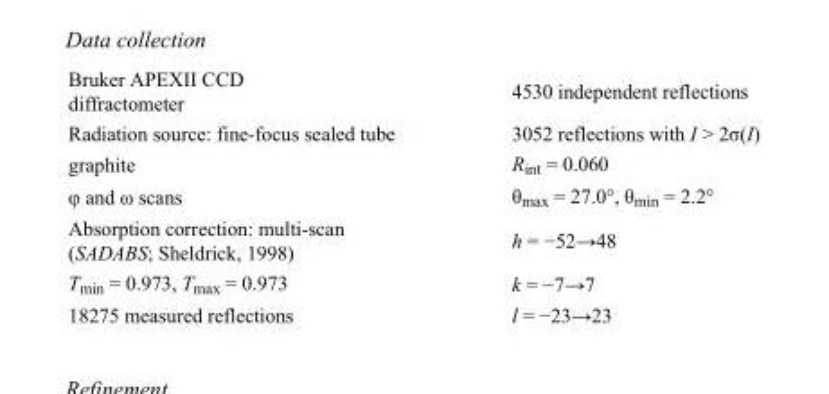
<table><tbody><tr><td>Bruker APEXII CCD diffractometer</td><td>4530 independent reflections</td></tr><tr><td>Radiation source: fine-focus sealed tube</td><td>3052 reflections with I &gt; 2σ(I)</td></tr><tr><td>graphite</td><td>R<sub>int</sub> = 0.060</td></tr><tr><td>φ and ω scans</td><td>θ<sub>max</sub> = 27.0°, θ<sub>min</sub> = 2.2°</td></tr><tr><td>Absorption correction: multi-scan (SADABS; Sheldrick, 1998)</td><td>h = −52→48</td></tr><tr><td>T<sub>min</sub> = 0.973, T<sub>max</sub> = 0.973</td><td>k = −7→7</td></tr><tr><td>18275 measured reflections</td><td>l = −23→23</td></tr></tbody></table>